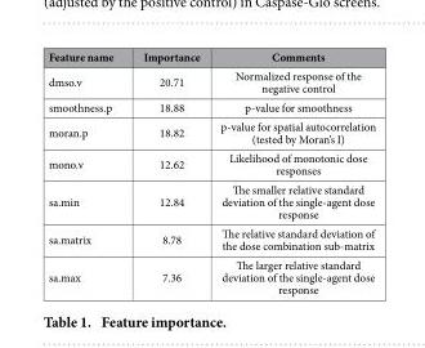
<table><thead><tr><td>Feature name</td><td>Importance</td><td>Comments</td></tr></thead><tbody><tr><td>dmso.v</td><td>20.71</td><td>Normalized response of the negative control</td></tr><tr><td>smoothness.p</td><td>18.88</td><td>p-value for smoothness</td></tr><tr><td>moran.p</td><td>18.82</td><td>p-value for spatial autocorrelation (tested by Moran’s I)</td></tr><tr><td>mono.v</td><td>12.62</td><td>Likelihood of monotonic dose responses</td></tr><tr><td>sa.min</td><td>12.84</td><td>The smaller relative standard deviation of the single-agent dose response</td></tr><tr><td>sa.matrix</td><td>8.78</td><td>The relative standard deviation of the dose combination sub-matrix</td></tr><tr><td>sa.max</td><td>7.36</td><td>The larger relative standard deviation of the single-agent dose response</td></tr></tbody></table>